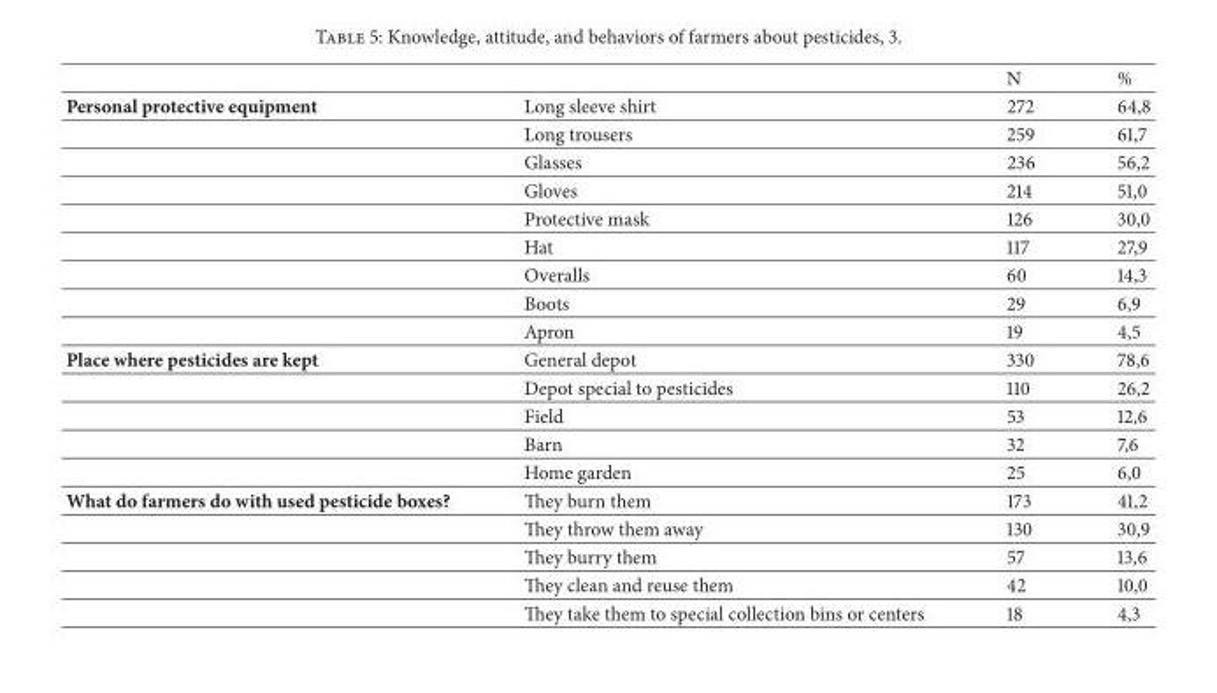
<table><thead><tr><td></td><td></td><td>N</td><td>%</td></tr></thead><tbody><tr><td rowspan="9">Personal protective equipment</td><td>Long sleeve shirt</td><td>272</td><td>64,8</td></tr><tr><td>Long trousers</td><td>259</td><td>61,7</td></tr><tr><td>Glasses</td><td>236</td><td>56,2</td></tr><tr><td>Gloves</td><td>214</td><td>51,0</td></tr><tr><td>Protective mask</td><td>126</td><td>30,0</td></tr><tr><td>Hat</td><td>117</td><td>27,9</td></tr><tr><td>Overalls</td><td>60</td><td>14,3</td></tr><tr><td>Boots</td><td>29</td><td>6,9</td></tr><tr><td>Apron</td><td>19</td><td>4,5</td></tr><tr><td rowspan="5">Place where pesticides are kept</td><td>General depot</td><td>330</td><td>78,6</td></tr><tr><td>Depot special to pesticides</td><td>110</td><td>26,2</td></tr><tr><td>Field</td><td>53</td><td>12,6</td></tr><tr><td>Barn</td><td>32</td><td>7,6</td></tr><tr><td>Home garden</td><td>25</td><td>6,0</td></tr><tr><td rowspan="5">What do farmers do with used pesticide boxes?</td><td>They burn them</td><td>173</td><td>41,2</td></tr><tr><td>They throw them away</td><td>130</td><td>30,9</td></tr><tr><td>They burry them</td><td>57</td><td>13,6</td></tr><tr><td>They clean and reuse them</td><td>42</td><td>10,0</td></tr><tr><td>They take them to special collection bins or centers</td><td>18</td><td>4,3</td></tr></tbody></table>